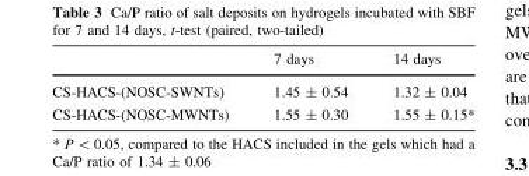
<table><thead><tr><td></td><td>7 days</td><td>14 days</td></tr></thead><tbody><tr><td>CS-HACS-(NOSC-SWNTs)</td><td>1.45 ± 0.54</td><td>1.32 ± 0.04</td></tr><tr><td>CS-HACS-(NOSC-MWNTs)</td><td>1.55 ± 0.30</td><td>1.55 ± 0.15*</td></tr></tbody></table>